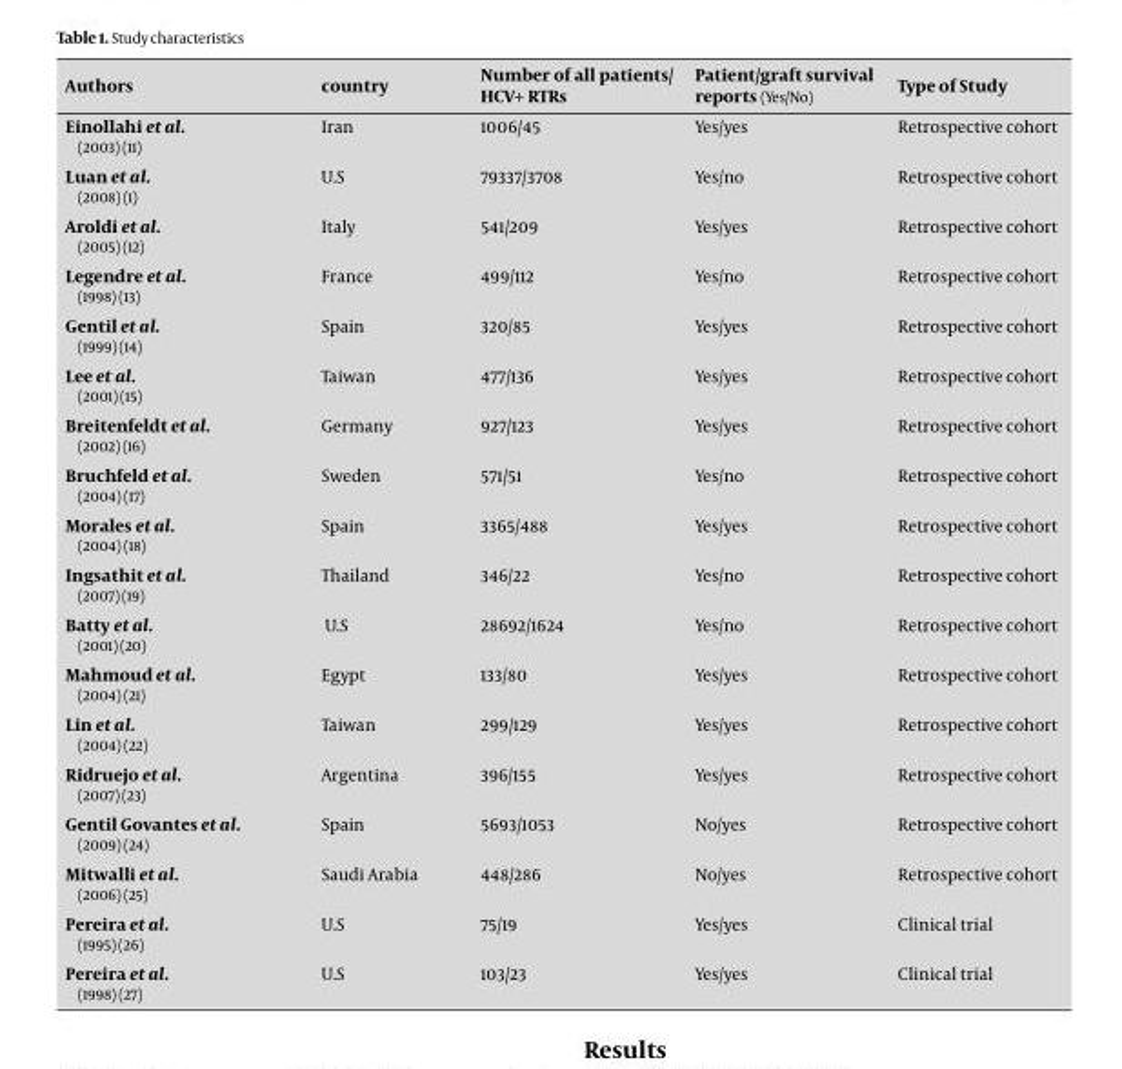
<table><thead><tr><td>Authors</td><td>country</td><td>Number of all patients/ HCV+ RTRs</td><td>Patient/graft survival reports (Yes/No)</td><td>Type of Study</td></tr></thead><tbody><tr><td>Einollahi et al. (2003) (11)</td><td>Iran</td><td>1006/45</td><td>Yes/yes</td><td>Retrospective cohort</td></tr><tr><td>Luan et al. (2008) (1)</td><td>U.S</td><td>79337/3708</td><td>Yes/no</td><td>Retrospective cohort</td></tr><tr><td>Aroldi et al. (2005) (12)</td><td>Italy</td><td>541/209</td><td>Yes/yes</td><td>Retrospective cohort</td></tr><tr><td>Legendre et al. (1998) (13)</td><td>France</td><td>499/112</td><td>Yes/no</td><td>Retrospective cohort</td></tr><tr><td>Gentil et al. (1999) (14)</td><td>Spain</td><td>320/85</td><td>Yes/yes</td><td>Retrospective cohort</td></tr><tr><td>Lee et al. (2001) (15)</td><td>Taiwan</td><td>477/136</td><td>Yes/yes</td><td>Retrospective cohort</td></tr><tr><td>Breitenfeldt et al. (2002) (16)</td><td>Germany</td><td>927/123</td><td>Yes/yes</td><td>Retrospective cohort</td></tr><tr><td>Bruchfeld et al. (2004) (17)</td><td>Sweden</td><td>571/51</td><td>Yes/no</td><td>Retrospective cohort</td></tr><tr><td>Morales et al. (2004) (18)</td><td>Spain</td><td>3365/488</td><td>Yes/yes</td><td>Retrospective cohort</td></tr><tr><td>Ingsathit et al. (2007) (19)</td><td>Thailand</td><td>346/22</td><td>Yes/no</td><td>Retrospective cohort</td></tr><tr><td>Batty et al. (2001) (20)</td><td>U.S</td><td>28692/1624</td><td>Yes/no</td><td>Retrospective cohort</td></tr><tr><td>Mahmoud et al. (2004) (21)</td><td>Egypt</td><td>133/80</td><td>Yes/yes</td><td>Retrospective cohort</td></tr><tr><td>Lin et al. (2004) (22)</td><td>Taiwan</td><td>299/129</td><td>Yes/yes</td><td>Retrospective cohort</td></tr><tr><td>Ridruejo et al. (2007) (23)</td><td>Argentina</td><td>396/155</td><td>Yes/yes</td><td>Retrospective cohort</td></tr><tr><td>Gentil Govantes et al. (2009) (24)</td><td>Spain</td><td>5693/1053</td><td>No/yes</td><td>Retrospective cohort</td></tr><tr><td>Mitwalli et al. (2006) (25)</td><td>Saudi Arabia</td><td>448/286</td><td>No/yes</td><td>Retrospective cohort</td></tr><tr><td>Pereira et al. (1995) (26)</td><td>U.S</td><td>75/19</td><td>Yes/yes</td><td>Clinical trial</td></tr><tr><td>Pereira et al. (1998) (27)</td><td>U.S</td><td>103/23</td><td>Yes/yes</td><td>Clinical trial</td></tr></tbody></table>